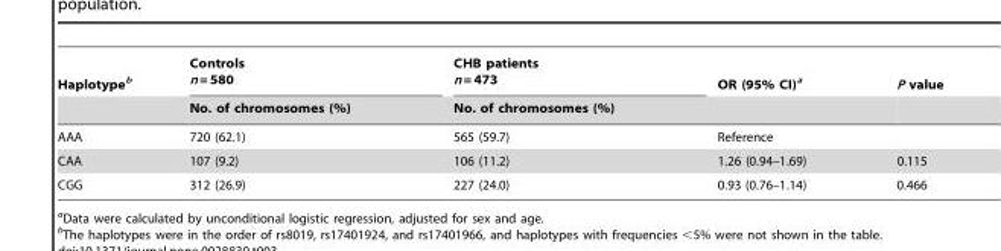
<table><thead><tr><td rowspan="2">Haplotype<sup>b</sup></td><td rowspan="2">Controls n = 580 No. of chromosomes (%)</td><td rowspan="2">CHB patients n = 473 No. of chromosomes (%)</td><td rowspan="2">OR (95% CI)<sup>a</sup></td><td rowspan="2">P value</td></tr><tr></tr></thead><tbody><tr><td>AAA</td><td>720 (62.1)</td><td>565 (59.7)</td><td>Reference</td><td></td></tr><tr><td>CAA</td><td>107 (9.2)</td><td>106 (11.2)</td><td>1.26 (0.94–1.69)</td><td>0.115</td></tr><tr><td>CGG</td><td>312 (26.9)</td><td>227 (24.0)</td><td>0.93 (0.76–1.14)</td><td>0.466</td></tr></tbody></table>